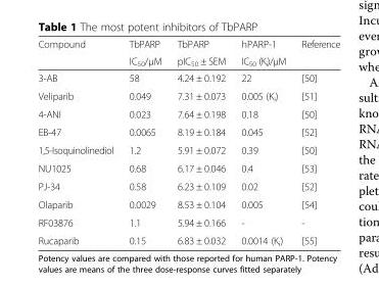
<table><thead><tr><td rowspan="2">Compound</td><td rowspan="2">TbPARP IC<sub>50</sub>/μM</td><td rowspan="2">TbPARP pIC<sub>50</sub> ± SEM</td><td rowspan="2">hPARP-1 IC<sub>50</sub> (K<sub>i</sub>)/μM</td><td rowspan="2">Reference</td></tr><tr></tr></thead><tbody><tr><td>3-AB</td><td>58</td><td>4.24 ± 0.192</td><td>22</td><td>[50]</td></tr><tr><td>Veliparib</td><td>0.049</td><td>7.31 ± 0.073</td><td>0.005 (K<sub>i</sub>)</td><td>[51]</td></tr><tr><td>4-ANI</td><td>0.023</td><td>7.64 ± 0.198</td><td>0.18</td><td>[50]</td></tr><tr><td>EB-47</td><td>0.0065</td><td>8.19 ± 0.184</td><td>0.045</td><td>[52]</td></tr><tr><td>1,5-Isoquinolinediol</td><td>1.2</td><td>5.91 ± 0.072</td><td>0.39</td><td>[50]</td></tr><tr><td>NU1025</td><td>0.68</td><td>6.17 ± 0.046</td><td>0.4</td><td>[53]</td></tr><tr><td>PJ-34</td><td>0.58</td><td>6.23 ± 0.109</td><td>0.02</td><td>[52]</td></tr><tr><td>Olaparib</td><td>0.0029</td><td>8.53 ± 0.104</td><td>0.005</td><td>[54]</td></tr><tr><td>RF03876</td><td>1.1</td><td>5.94 ± 0.166</td><td>-</td><td>-</td></tr><tr><td>Rucaparib</td><td>0.15</td><td>6.83 ± 0.032</td><td>0.0014 (K<sub>i</sub>)</td><td>[55]</td></tr></tbody></table>